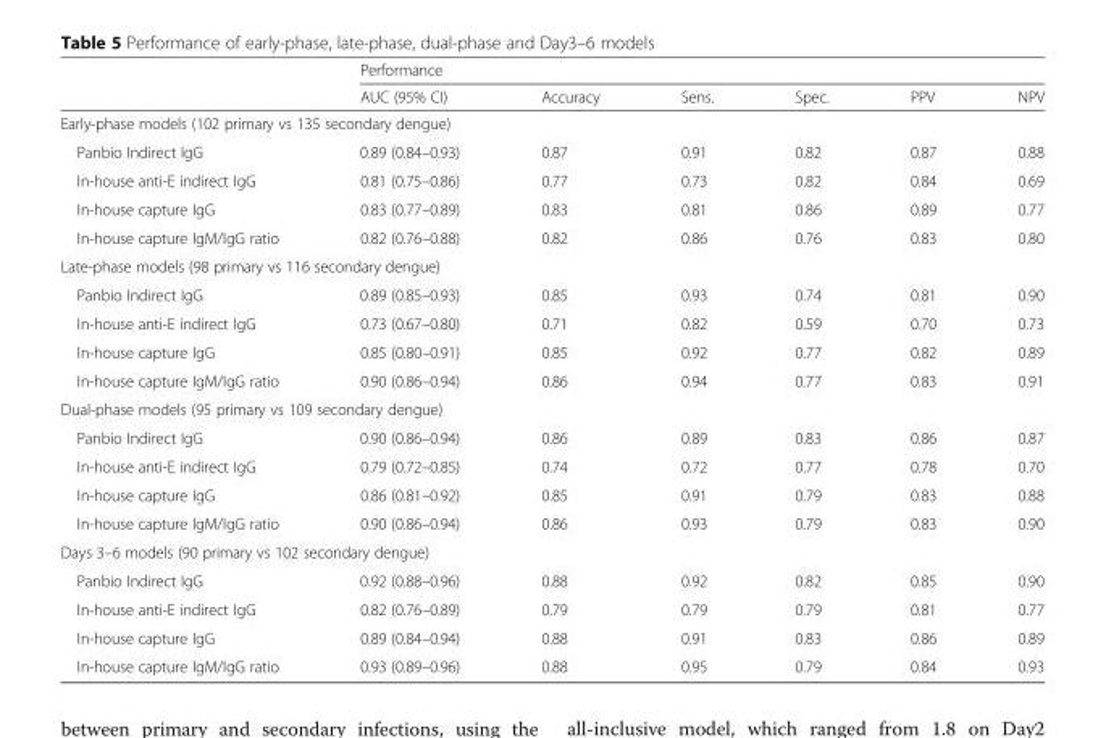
<table><thead><tr><td rowspan="2"></td><td colspan="6">Performance</td></tr><tr><td>AUC (95% CI)</td><td>Accuracy</td><td>Sens.</td><td>Spec.</td><td>PPV</td><td>NPV</td></tr></thead><tbody><tr><td colspan="7">Early-phase models (102 primary vs 135 secondary dengue)</td></tr><tr><td>Panbio Indirect IgG</td><td>0.89 (0.84–0.93)</td><td>0.87</td><td>0.91</td><td>0.82</td><td>0.87</td><td>0.88</td></tr><tr><td>In-house anti-E indirect IgG</td><td>0.81 (0.75–0.86)</td><td>0.77</td><td>0.73</td><td>0.82</td><td>0.84</td><td>0.69</td></tr><tr><td>In-house capture IgG</td><td>0.83 (0.77–0.89)</td><td>0.83</td><td>0.81</td><td>0.86</td><td>0.89</td><td>0.77</td></tr><tr><td>In-house capture IgM/IgG ratio</td><td>0.82 (0.76–0.88)</td><td>0.82</td><td>0.86</td><td>0.76</td><td>0.83</td><td>0.80</td></tr><tr><td colspan="7">Late-phase models (98 primary vs 116 secondary dengue)</td></tr><tr><td>Panbio Indirect IgG</td><td>0.89 (0.85–0.93)</td><td>0.85</td><td>0.93</td><td>0.74</td><td>0.81</td><td>0.90</td></tr><tr><td>In-house anti-E indirect IgG</td><td>0.73 (0.67–0.80)</td><td>0.71</td><td>0.82</td><td>0.59</td><td>0.70</td><td>0.73</td></tr><tr><td>In-house capture IgG</td><td>0.85 (0.80–0.91)</td><td>0.85</td><td>0.92</td><td>0.77</td><td>0.82</td><td>0.89</td></tr><tr><td>In-house capture IgM/IgG ratio</td><td>0.90 (0.86–0.94)</td><td>0.86</td><td>0.94</td><td>0.77</td><td>0.83</td><td>0.91</td></tr><tr><td colspan="7">Dual-phase models (95 primary vs 109 secondary dengue)</td></tr><tr><td>Panbio Indirect IgG</td><td>0.90 (0.86–0.94)</td><td>0.86</td><td>0.89</td><td>0.83</td><td>0.86</td><td>0.87</td></tr><tr><td>In-house anti-E indirect IgG</td><td>0.79 (0.72–0.85)</td><td>0.74</td><td>0.72</td><td>0.77</td><td>0.78</td><td>0.70</td></tr><tr><td>In-house capture IgG</td><td>0.86 (0.81–0.92)</td><td>0.85</td><td>0.91</td><td>0.79</td><td>0.83</td><td>0.88</td></tr><tr><td>In-house capture IgM/IgG ratio</td><td>0.90 (0.86–0.94)</td><td>0.86</td><td>0.93</td><td>0.79</td><td>0.83</td><td>0.90</td></tr><tr><td colspan="7">Days 3–6 models (90 primary vs 102 secondary dengue)</td></tr><tr><td>Panbio Indirect IgG</td><td>0.92 (0.88–0.96)</td><td>0.88</td><td>0.92</td><td>0.82</td><td>0.85</td><td>0.90</td></tr><tr><td>In-house anti-E indirect IgG</td><td>0.82 (0.76–0.89)</td><td>0.79</td><td>0.79</td><td>0.79</td><td>0.81</td><td>0.77</td></tr><tr><td>In-house capture IgG</td><td>0.89 (0.84–0.94)</td><td>0.88</td><td>0.91</td><td>0.83</td><td>0.86</td><td>0.89</td></tr><tr><td>In-house capture IgM/IgG ratio</td><td>0.93 (0.89–0.96)</td><td>0.88</td><td>0.95</td><td>0.79</td><td>0.84</td><td>0.93</td></tr></tbody></table>